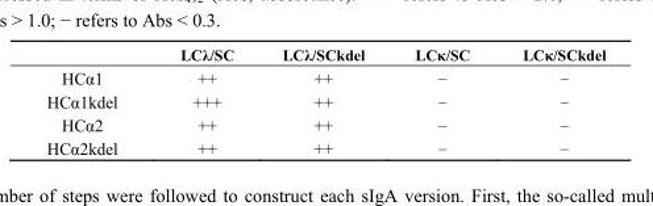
<table><thead><tr><td></td><td>LCλ/SC</td><td>LCλ/SCkdel</td><td>LCκ/SC</td><td>LCκ/SCkdel</td></tr></thead><tbody><tr><td>HCα1</td><td>++</td><td>++</td><td>−</td><td>−</td></tr><tr><td>HCα1kdel</td><td>+++</td><td>++</td><td>−</td><td>−</td></tr><tr><td>HCα2</td><td>++</td><td>++</td><td>−</td><td>−</td></tr><tr><td>HCα2kdel</td><td>++</td><td>++</td><td>−</td><td>−</td></tr></tbody></table>